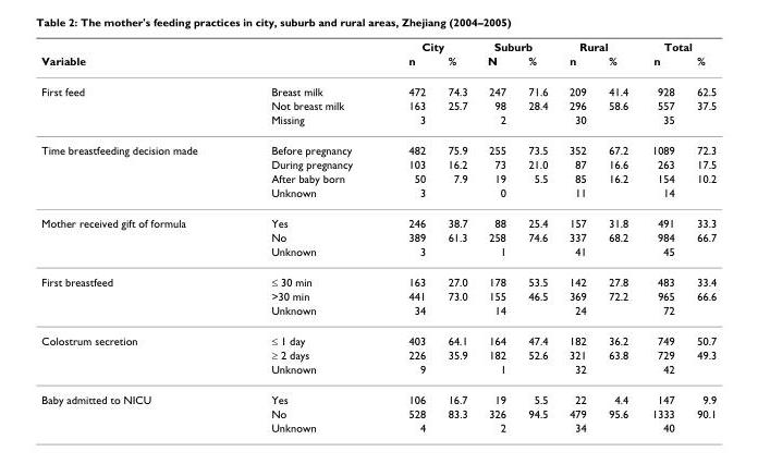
<table><thead><tr><td rowspan="2">Variable</td><td rowspan="2"></td><td colspan="2">City</td><td colspan="2">Suburb</td><td colspan="2">Rural</td><td colspan="2">Total</td></tr><tr><td>n</td><td>%</td><td>N</td><td>%</td><td>n</td><td>%</td><td>n</td><td>%</td></tr></thead><tbody><tr><td rowspan="3">First feed</td><td>Breast milk</td><td>472</td><td>74.3</td><td>247</td><td>71.6</td><td>209</td><td>41.4</td><td>928</td><td>62.5</td></tr><tr><td>Not breast milk</td><td>163</td><td>25.7</td><td>98</td><td>28.4</td><td>296</td><td>58.6</td><td>557</td><td>37.5</td></tr><tr><td>Missing</td><td>3</td><td></td><td>2</td><td></td><td>30</td><td></td><td>35</td><td></td></tr><tr><td rowspan="4">Time breastfeeding decision made</td><td>Before pregnancy</td><td>482</td><td>75.9</td><td>255</td><td>73.5</td><td>352</td><td>67.2</td><td>1089</td><td>72.3</td></tr><tr><td>During pregnancy</td><td>103</td><td>16.2</td><td>73</td><td>21.0</td><td>87</td><td>16.6</td><td>263</td><td>17.5</td></tr><tr><td>After baby born</td><td>50</td><td>7.9</td><td>19</td><td>5.5</td><td>85</td><td>16.2</td><td>154</td><td>10.2</td></tr><tr><td>Unknown</td><td>3</td><td></td><td>0</td><td></td><td>11</td><td></td><td>14</td><td></td></tr><tr><td rowspan="3">Mother received gift of formula</td><td>Yes</td><td>246</td><td>38.7</td><td>88</td><td>25.4</td><td>157</td><td>31.8</td><td>491</td><td>33.3</td></tr><tr><td>No</td><td>389</td><td>61.3</td><td>258</td><td>74.6</td><td>337</td><td>68.2</td><td>984</td><td>66.7</td></tr><tr><td>Unknown</td><td>3</td><td></td><td>1</td><td></td><td>41</td><td></td><td>45</td><td></td></tr><tr><td rowspan="3">First breastfeed</td><td>≤ 30 min</td><td>163</td><td>27.0</td><td>178</td><td>53.5</td><td>142</td><td>27.8</td><td>483</td><td>33.4</td></tr><tr><td>&gt;30 min</td><td>441</td><td>73.0</td><td>155</td><td>46.5</td><td>369</td><td>72.2</td><td>965</td><td>66.6</td></tr><tr><td>Unknown</td><td>34</td><td></td><td>14</td><td></td><td>24</td><td></td><td>72</td><td></td></tr><tr><td rowspan="3">Colostrum secretion</td><td>≤ 1 day</td><td>403</td><td>64.1</td><td>164</td><td>47.4</td><td>182</td><td>36.2</td><td>749</td><td>50.7</td></tr><tr><td>≥ 2 days</td><td>226</td><td>35.9</td><td>182</td><td>52.6</td><td>321</td><td>63.8</td><td>729</td><td>49.3</td></tr><tr><td>Unknown</td><td>9</td><td></td><td>1</td><td></td><td>32</td><td></td><td>42</td><td></td></tr><tr><td rowspan="3">Baby admitted to NICU</td><td>Yes</td><td>106</td><td>16.7</td><td>19</td><td>5.5</td><td>22</td><td>4.4</td><td>147</td><td>9.9</td></tr><tr><td>No</td><td>528</td><td>83.3</td><td>326</td><td>94.5</td><td>479</td><td>95.6</td><td>1333</td><td>90.1</td></tr><tr><td>Unknown</td><td>4</td><td></td><td>2</td><td></td><td>34</td><td></td><td>40</td><td></td></tr></tbody></table>